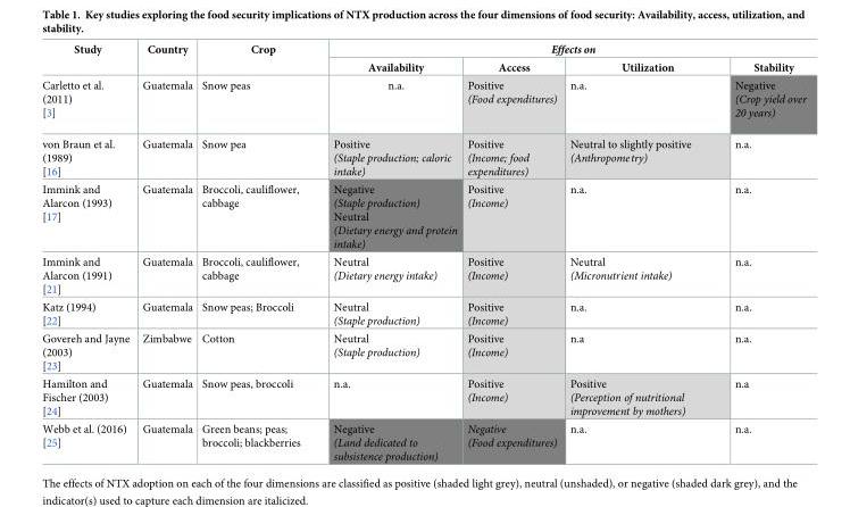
<table><thead><tr><td rowspan="2">Study</td><td rowspan="2">Country</td><td rowspan="2">Crop</td><td colspan="4">Effects on</td></tr><tr><td>Availability</td><td>Access</td><td>Utilization</td><td>Stability</td></tr></thead><tbody><tr><td>Carletto et al. (2011) [3]</td><td>Guatemala</td><td>Snow peas</td><td>n.a.</td><td>Positive (Food expenditures)</td><td>n.a.</td><td>Negative (Crop yield over 20 years)</td></tr><tr><td>von Braun et al. (1989) [16]</td><td>Guatemala</td><td>Snow pea</td><td>Positive (Staple production; caloric intake)</td><td>Positive (Income; food expenditures)</td><td>Neutral to slightly positive (Anthropometry)</td><td>n.a.</td></tr><tr><td>Immink and Alarcon (1993) [17]</td><td>Guatemala</td><td>Broccoli, cauliflower, cabbage</td><td>Negative (Staple production) Neutral (Dietary energy and protein intake)</td><td>Positive (Income)</td><td>n.a.</td><td>n.a.</td></tr><tr><td>Immink and Alarcon (1991) [21]</td><td>Guatemala</td><td>Broccoli, cauliflower, cabbage</td><td>Neutral (Dietary energy intake)</td><td>Positive (Income)</td><td>Neutral (Micronutrient intake)</td><td>n.a.</td></tr><tr><td>Katz (1994) [22]</td><td>Guatemala</td><td>Snow peas; Broccoli</td><td>Neutral (Staple production)</td><td>Positive (Income)</td><td>n.a.</td><td>n.a.</td></tr><tr><td>Govereh and Jayne (2003) [23]</td><td>Zimbabwe</td><td>Cotton</td><td>Neutral (Staple production)</td><td>Positive (Income)</td><td>n.a</td><td>n.a.</td></tr><tr><td>Hamilton and Fischer (2003) [24]</td><td>Guatemala</td><td>Snow peas, broccoli</td><td>n.a.</td><td>Positive (Income)</td><td>Positive (Perception of nutritional improvement by mothers)</td><td>n.a</td></tr><tr><td>Webb et al. (2016) [25]</td><td>Guatemala</td><td>Green beans; peas; broccoli; blackberries</td><td>Negative (Land dedicated to subsistence production)</td><td>Negative (Food expenditures)</td><td>n.a.</td><td>n.a.</td></tr></tbody></table>